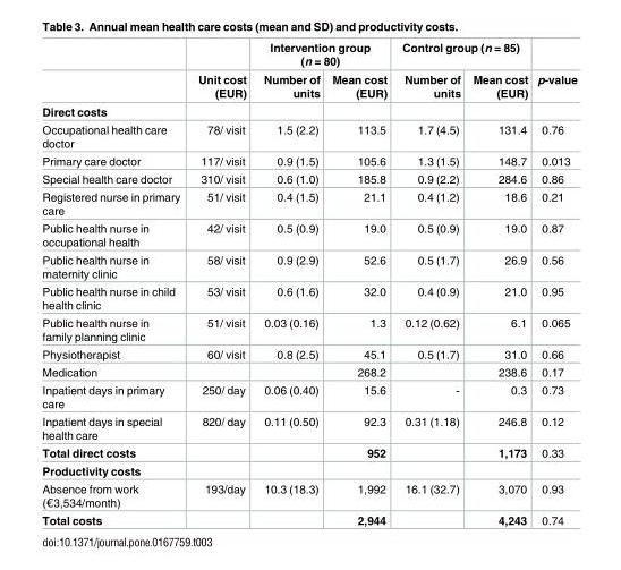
<table><thead><tr><td rowspan="2"></td><td rowspan="2">Unit cost (EUR)</td><td colspan="2">Intervention group (n = 80)</td><td colspan="2">Control group (n = 85)</td><td rowspan="2">p-value</td></tr><tr><td>Number of units</td><td>Mean cost (EUR)</td><td>Number of units</td><td>Mean cost (EUR)</td></tr></thead><tbody><tr><td colspan="7">Direct costs</td></tr><tr><td>Occupational health care doctor</td><td>78/ visit</td><td>1.5 (2.2)</td><td>113.5</td><td>1.7 (4.5)</td><td>131.4</td><td>0.76</td></tr><tr><td>Primary care doctor</td><td>117/ visit</td><td>0.9 (1.5)</td><td>105.6</td><td>1.3 (1.5)</td><td>148.7</td><td>0.013</td></tr><tr><td>Special health care doctor</td><td>310/ visit</td><td>0.6 (1.0)</td><td>185.8</td><td>0.9 (2.2)</td><td>284.6</td><td>0.86</td></tr><tr><td>Registered nurse in primary care</td><td>51/ visit</td><td>0.4 (1.5)</td><td>21.1</td><td>0.4 (1.2)</td><td>18.6</td><td>0.21</td></tr><tr><td>Public health nurse in occupational health</td><td>42/ visit</td><td>0.5 (0.9)</td><td>19.0</td><td>0.5 (0.9)</td><td>19.0</td><td>0.87</td></tr><tr><td>Public health nurse in maternity clinic</td><td>58/ visit</td><td>0.9 (2.9)</td><td>52.6</td><td>0.5 (1.7)</td><td>26.9</td><td>0.56</td></tr><tr><td>Public health nurse in child health clinic</td><td>53/ visit</td><td>0.6 (1.6)</td><td>32.0</td><td>0.4 (0.9)</td><td>21.0</td><td>0.95</td></tr><tr><td>Public health nurse in family planning clinic</td><td>51/ visit</td><td>0.03 (0.16)</td><td>1.3</td><td>0.12 (0.62)</td><td>6.1</td><td>0.065</td></tr><tr><td>Physiotherapist</td><td>60/ visit</td><td>0.8 (2.5)</td><td>45.1</td><td>0.5 (1.7)</td><td>31.0</td><td>0.66</td></tr><tr><td>Medication</td><td></td><td></td><td>268.2</td><td></td><td>238.6</td><td>0.17</td></tr><tr><td>Inpatient days in primary care</td><td>250/ day</td><td>0.06 (0.40)</td><td>15.6</td><td>-</td><td>0.3</td><td>0.73</td></tr><tr><td>Inpatient days in special health care</td><td>820/ day</td><td>0.11 (0.50)</td><td>92.3</td><td>0.31 (1.18)</td><td>246.8</td><td>0.12</td></tr><tr><td>Total direct costs</td><td></td><td></td><td>952</td><td></td><td>1,173</td><td>0.33</td></tr><tr><td colspan="7">Productivity costs</td></tr><tr><td>Absence from work (€3,534/month)</td><td>193/day</td><td>10.3 (18.3)</td><td>1,992</td><td>16.1 (32.7)</td><td>3,070</td><td>0.93</td></tr><tr><td>Total costs</td><td></td><td></td><td>2,944</td><td></td><td>4,243</td><td>0.74</td></tr></tbody></table>